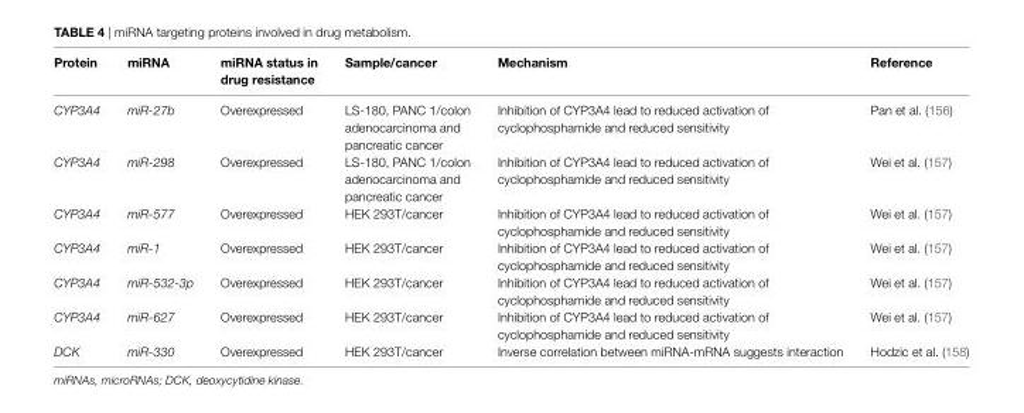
<table><thead><tr><td>Protein</td><td>miRNA</td><td>miRNA status in drug resistance</td><td>Sample/cancer</td><td>Mechanism</td><td>Reference</td></tr></thead><tbody><tr><td>CYP3A4</td><td>miR-27b</td><td>Overexpressed</td><td>LS-180, PANC 1/colon adenocarcinoma and pancreatic cancer</td><td>Inhibition of CYP3A4 lead to reduced activation of cyclophosphamide and reduced sensitivity</td><td>Pan et al. (156)</td></tr><tr><td>CYP3A4</td><td>miR-298</td><td>Overexpressed</td><td>LS-180, PANC 1/colon adenocarcinoma and pancreatic cancer</td><td>Inhibition of CYP3A4 lead to reduced activation of cyclophosphamide and reduced sensitivity</td><td>Wei et al. (157)</td></tr><tr><td>CYP3A4</td><td>miR-577</td><td>Overexpressed</td><td>HEK 293T/cancer</td><td>Inhibition of CYP3A4 lead to reduced activation of cyclophosphamide and reduced sensitivity</td><td>Wei et al. (157)</td></tr><tr><td>CYP3A4</td><td>miR-1</td><td>Overexpressed</td><td>HEK 293T/cancer</td><td>Inhibition of CYP3A4 lead to reduced activation of cyclophosphamide and reduced sensitivity</td><td>Wei et al. (157)</td></tr><tr><td>CYP3A4</td><td>miR-532-3p</td><td>Overexpressed</td><td>HEK 293T/cancer</td><td>Inhibition of CYP3A4 lead to reduced activation of cyclophosphamide and reduced sensitivity</td><td>Wei et al. (157)</td></tr><tr><td>CYP3A4</td><td>miR-627</td><td>Overexpressed</td><td>HEK 293T/cancer</td><td>Inhibition of CYP3A4 lead to reduced activation of cyclophosphamide and reduced sensitivity</td><td>Wei et al. (157)</td></tr><tr><td>DCK</td><td>miR-330</td><td>Overexpressed</td><td>HEK 293T/cancer</td><td>Inverse correlation between miRNA-mRNA suggests interaction</td><td>Hodzic et al. (158)</td></tr></tbody></table>